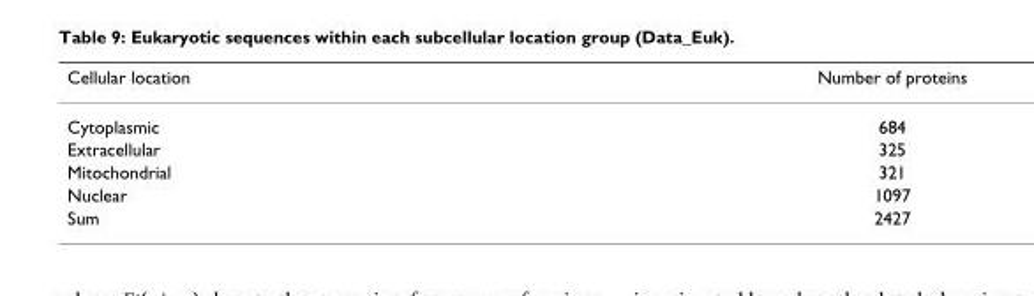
<table><thead><tr><td>Cellular location</td><td>Number of proteins</td></tr></thead><tbody><tr><td>Cytoplasmic</td><td>684</td></tr><tr><td>Extracellular</td><td>325</td></tr><tr><td>Mitochondrial</td><td>321</td></tr><tr><td>Nuclear</td><td>1097</td></tr><tr><td>Sum</td><td>2427</td></tr></tbody></table>